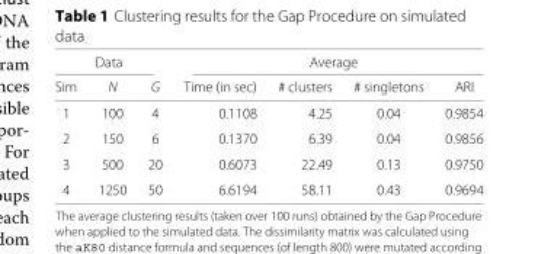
<table><thead><tr><td colspan="3">Data</td><td colspan="4">Average</td></tr><tr><td>Sim</td><td>N</td><td>G</td><td>Time (in sec)</td><td># clusters</td><td># singletons</td><td>ARI</td></tr></thead><tbody><tr><td>1</td><td>100</td><td>4</td><td>0.1108</td><td>4.25</td><td>0.04</td><td>0.9854</td></tr><tr><td>2</td><td>150</td><td>6</td><td>0.1370</td><td>6.39</td><td>0.04</td><td>0.9856</td></tr><tr><td>3</td><td>500</td><td>20</td><td>0.6073</td><td>22.49</td><td>0.13</td><td>0.9750</td></tr><tr><td>4</td><td>1250</td><td>50</td><td>6.6194</td><td>58.11</td><td>0.43</td><td>0.9694</td></tr></tbody></table>